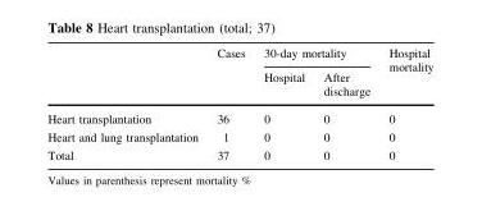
<table><thead><tr><td rowspan="2"></td><td rowspan="2">Cases</td><td colspan="2">30-day mortality</td><td rowspan="2">Hospital mortality</td></tr><tr><td>Hospital</td><td>After discharge</td></tr></thead><tbody><tr><td>Heart transplantation</td><td>36</td><td>0</td><td>0</td><td>0</td></tr><tr><td>Heart and lung transplantation</td><td>1</td><td>0</td><td>0</td><td>0</td></tr><tr><td>Total</td><td>37</td><td>0</td><td>0</td><td>0</td></tr></tbody></table>